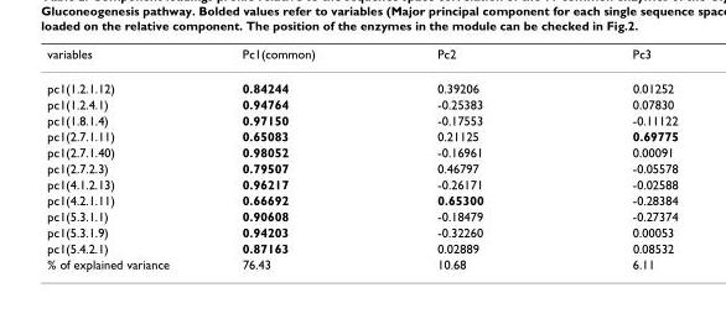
<table><thead><tr><td>variables</td><td>Pc1(common)</td><td>Pc2</td><td>Pc3</td></tr></thead><tbody><tr><td>pc1(1.2.1.12)</td><td>0.84244</td><td>0.39206</td><td>0.01252</td></tr><tr><td>pc1(1.2.4.1)</td><td>0.94764</td><td>-0.25383</td><td>0.07830</td></tr><tr><td>pc1(1.8.1.4)</td><td>0.97150</td><td>-0.17553</td><td>-0.11122</td></tr><tr><td>pc1(2.7.1.11)</td><td>0.65083</td><td>0.21125</td><td>0.69775</td></tr><tr><td>pc1(2.7.1.40)</td><td>0.98052</td><td>-0.16961</td><td>0.00091</td></tr><tr><td>pc1(2.7.2.3)</td><td>0.79507</td><td>0.46797</td><td>-0.05578</td></tr><tr><td>pc1(4.1.2.13)</td><td>0.96217</td><td>-0.26171</td><td>-0.02588</td></tr><tr><td>pc1(4.2.1.11)</td><td>0.66692</td><td>0.65300</td><td>-0.28384</td></tr><tr><td>pc1(5.3.1.1)</td><td>0.90608</td><td>-0.18479</td><td>-0.27374</td></tr><tr><td>pc1(5.3.1.9)</td><td>0.94203</td><td>-0.32260</td><td>0.00053</td></tr><tr><td>pc1(5.4.2.1)</td><td>0.87163</td><td>0.02889</td><td>0.08532</td></tr><tr><td>% of explained variance</td><td>76.43</td><td>10.68</td><td>6.11</td></tr></tbody></table>